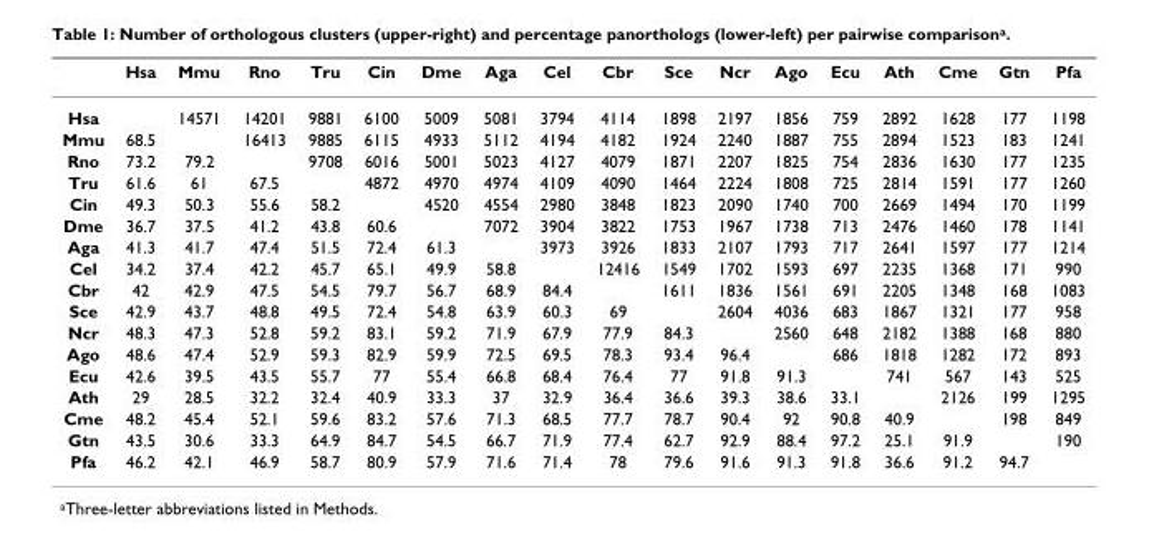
<table><thead><tr><td></td><td>Hsa</td><td>Mmu</td><td>Rno</td><td>Tru</td><td>Cin</td><td>Dme</td><td>Aga</td><td>Cel</td><td>Cbr</td><td>Sce</td><td>Ncr</td><td>Ago</td><td>Ecu</td><td>Ath</td><td>Cme</td><td>Gtn</td><td>Pfa</td></tr></thead><tbody><tr><td>Hsa</td><td></td><td>14571</td><td>14201</td><td>9881</td><td>6100</td><td>5009</td><td>5081</td><td>3794</td><td>4114</td><td>1898</td><td>2197</td><td>1856</td><td>759</td><td>2892</td><td>1628</td><td>177</td><td>1198</td></tr><tr><td>Mmu</td><td>68.5</td><td></td><td>16413</td><td>9885</td><td>6115</td><td>4933</td><td>5112</td><td>4194</td><td>4182</td><td>1924</td><td>2240</td><td>1887</td><td>755</td><td>2894</td><td>1523</td><td>183</td><td>1241</td></tr><tr><td>Rno</td><td>73.2</td><td>79.2</td><td></td><td>9708</td><td>6016</td><td>5001</td><td>5023</td><td>4127</td><td>4079</td><td>1871</td><td>2207</td><td>1825</td><td>754</td><td>2836</td><td>1630</td><td>177</td><td>1235</td></tr><tr><td>Tru</td><td>61.6</td><td>61</td><td>67.5</td><td></td><td>4872</td><td>4970</td><td>4974</td><td>4109</td><td>4090</td><td>1464</td><td>2224</td><td>1808</td><td>725</td><td>2814</td><td>1591</td><td>177</td><td>1260</td></tr><tr><td>Cin</td><td>49.3</td><td>50.3</td><td>55.6</td><td>58.2</td><td></td><td>4520</td><td>4554</td><td>2980</td><td>3848</td><td>1823</td><td>2090</td><td>1740</td><td>700</td><td>2669</td><td>1494</td><td>170</td><td>1199</td></tr><tr><td>Dme</td><td>36.7</td><td>37.5</td><td>41.2</td><td>43.8</td><td>60.6</td><td></td><td>7072</td><td>3904</td><td>3822</td><td>1753</td><td>1967</td><td>1738</td><td>713</td><td>2476</td><td>1460</td><td>178</td><td>1141</td></tr><tr><td>Aga</td><td>41.3</td><td>41.7</td><td>47.4</td><td>51.5</td><td>72.4</td><td>61.3</td><td></td><td>3973</td><td>3926</td><td>1833</td><td>2107</td><td>1793</td><td>717</td><td>2641</td><td>1597</td><td>177</td><td>1214</td></tr><tr><td>Cel</td><td>34.2</td><td>37.4</td><td>42.2</td><td>45.7</td><td>65.1</td><td>49.9</td><td>58.8</td><td></td><td>12416</td><td>1549</td><td>1702</td><td>1593</td><td>697</td><td>2235</td><td>1368</td><td>171</td><td>990</td></tr><tr><td>Cbr</td><td>42</td><td>42.9</td><td>47.5</td><td>54.5</td><td>79.7</td><td>56.7</td><td>68.9</td><td>84.4</td><td></td><td>1611</td><td>1836</td><td>1561</td><td>691</td><td>2205</td><td>1348</td><td>168</td><td>1083</td></tr><tr><td>Sce</td><td>42.9</td><td>43.7</td><td>48.8</td><td>49.5</td><td>72.4</td><td>54.8</td><td>63.9</td><td>60.3</td><td>69</td><td></td><td>2604</td><td>4036</td><td>683</td><td>1867</td><td>1321</td><td>177</td><td>958</td></tr><tr><td>Ncr</td><td>48.3</td><td>47.3</td><td>52.8</td><td>59.2</td><td>83.1</td><td>59.2</td><td>71.9</td><td>67.9</td><td>77.9</td><td>84.3</td><td></td><td>2560</td><td>648</td><td>2182</td><td>1388</td><td>168</td><td>880</td></tr><tr><td>Ago</td><td>48.6</td><td>47.4</td><td>52.9</td><td>59.3</td><td>82.9</td><td>59.9</td><td>72.5</td><td>69.5</td><td>78.3</td><td>93.4</td><td>96.4</td><td></td><td>686</td><td>1818</td><td>1282</td><td>172</td><td>893</td></tr><tr><td>Ecu</td><td>42.6</td><td>39.5</td><td>43.5</td><td>55.7</td><td>77</td><td>55.4</td><td>66.8</td><td>68.4</td><td>76.4</td><td>77</td><td>91.8</td><td>91.3</td><td></td><td>741</td><td>567</td><td>143</td><td>525</td></tr><tr><td>Ath</td><td>29</td><td>28.5</td><td>32.2</td><td>32.4</td><td>40.9</td><td>33.3</td><td>37</td><td>32.9</td><td>36.4</td><td>36.6</td><td>39.3</td><td>38.6</td><td>33.1</td><td></td><td>2126</td><td>199</td><td>1295</td></tr><tr><td>Cme</td><td>48.2</td><td>45.4</td><td>52.1</td><td>59.6</td><td>83.2</td><td>57.6</td><td>71.3</td><td>68.5</td><td>77.7</td><td>78.7</td><td>90.4</td><td>92</td><td>90.8</td><td>40.9</td><td></td><td>198</td><td>849</td></tr><tr><td>Gtn</td><td>43.5</td><td>30.6</td><td>33.3</td><td>64.9</td><td>84.7</td><td>54.5</td><td>66.7</td><td>71.9</td><td>77.4</td><td>62.7</td><td>92.9</td><td>88.4</td><td>97.2</td><td>25.1</td><td>91.9</td><td></td><td>190</td></tr><tr><td>Pfa</td><td>46.2</td><td>42.1</td><td>46.9</td><td>58.7</td><td>80.9</td><td>57.9</td><td>71.6</td><td>71.4</td><td>78</td><td>79.6</td><td>91.6</td><td>91.3</td><td>91.8</td><td>36.6</td><td>91.2</td><td>94.7</td><td></td></tr></tbody></table>